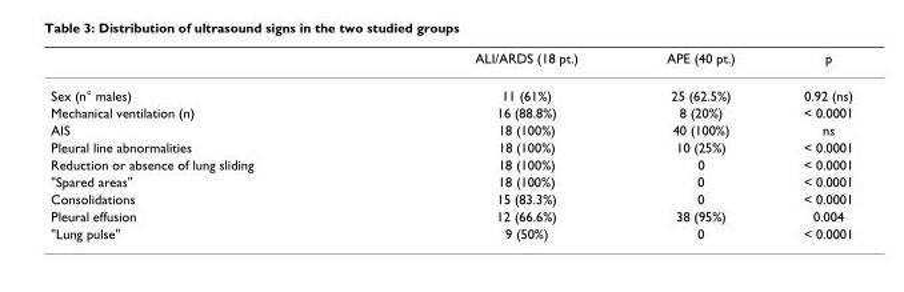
<table><thead><tr><td></td><td>ALI/ARDS (18 pt.)</td><td>APE (40 pt.)</td><td>p</td></tr></thead><tbody><tr><td>Sex (n° males)</td><td>11 (61%)</td><td>25 (62.5%)</td><td>0.92 (ns)</td></tr><tr><td>Mechanical ventilation (n)</td><td>16 (88.8%)</td><td>8 (20%)</td><td>&lt; 0.0001</td></tr><tr><td>AIS</td><td>18 (100%)</td><td>40 (100%)</td><td>ns</td></tr><tr><td>Pleural line abnormalities</td><td>18 (100%)</td><td>10 (25%)</td><td>&lt; 0.0001</td></tr><tr><td>Reduction or absence of lung sliding</td><td>18 (100%)</td><td>0</td><td>&lt; 0.0001</td></tr><tr><td>&quot;Spared areas&quot;</td><td>18 (100%)</td><td>0</td><td>&lt; 0.0001</td></tr><tr><td>Consolidations</td><td>15 (83.3%)</td><td>0</td><td>&lt; 0.0001</td></tr><tr><td>Pleural effusion</td><td>12 (66.6%)</td><td>38 (95%)</td><td>0.004</td></tr><tr><td>&quot;Lung pulse&quot;</td><td>9 (50%)</td><td>0</td><td>&lt; 0.0001</td></tr></tbody></table>